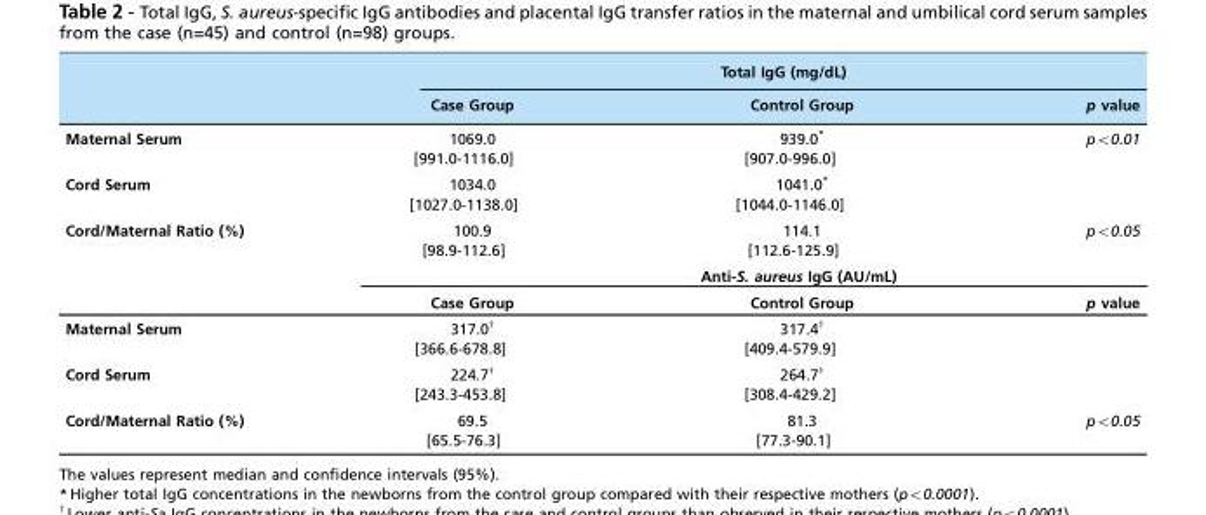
<table><thead><tr><td rowspan="2"></td><td colspan="3">Total IgG (mg/dL)</td></tr><tr><td>Case Group</td><td>Control Group</td><td>p value</td></tr></thead><tbody><tr><td>Maternal Serum</td><td>1069.0 [991.0-1116.0]</td><td>939.0* [907.0-996.0]</td><td>p&lt;0.01</td></tr><tr><td>Cord Serum</td><td>1034.0 [1027.0-1138.0]</td><td>1041.0* [1044.0-1146.0]</td><td></td></tr><tr><td rowspan="3">Cord/Maternal Ratio (%)</td><td>100.9 [98.9-112.6]</td><td>114.1 [112.6-125.9]</td><td>p&lt;0.05</td></tr><tr><td></td><td>Anti-S. aureus IgG (AU/mL)</td><td></td></tr><tr><td>Case Group</td><td>Control Group</td><td>p value</td></tr><tr><td>Maternal Serum</td><td>317.0† [366.6-678.8]</td><td>317.4† [409.4-579.9]</td><td></td></tr><tr><td>Cord Serum</td><td>224.7† [243.3-453.8]</td><td>264.7† [308.4-429.2]</td><td></td></tr><tr><td>Cord/Maternal Ratio (%)</td><td>69.5 [65.5-76.3]</td><td>81.3 [77.3-90.1]</td><td>p&lt;0.05</td></tr></tbody></table>